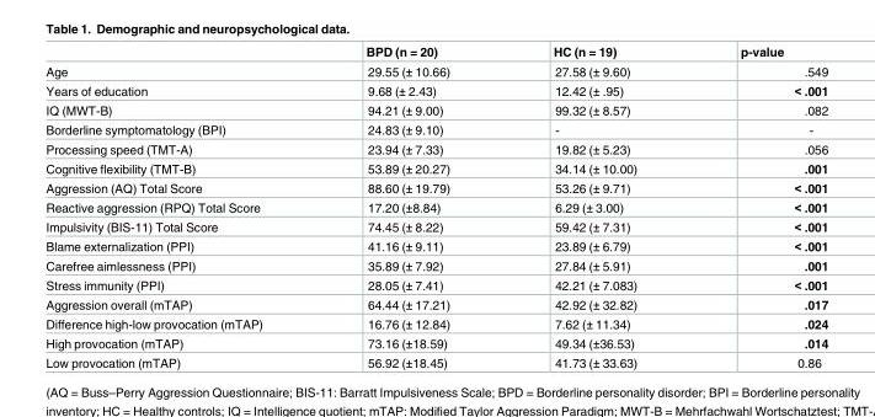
<table><thead><tr><td></td><td>BPD (n = 20)</td><td>HC (n = 19)</td><td>p-value</td></tr></thead><tbody><tr><td>Age</td><td>29.55 (± 10.66)</td><td>27.58 (± 9.60)</td><td>.549</td></tr><tr><td>Years of education</td><td>9.68 (± 2.43)</td><td>12.42 (± .95)</td><td>&lt; .001</td></tr><tr><td>IQ (MWT-B)</td><td>94.21 (± 9.00)</td><td>99.32 (± 8.57)</td><td>.082</td></tr><tr><td>Borderline symptomatology (BPI)</td><td>24.83 (± 9.10)</td><td>-</td><td>-</td></tr><tr><td>Processing speed (TMT-A)</td><td>23.94 (± 7.33)</td><td>19.82 (± 5.23)</td><td>.056</td></tr><tr><td>Cognitive flexibility (TMT-B)</td><td>53.89 (± 20.27)</td><td>34.14 (± 10.00)</td><td>.001</td></tr><tr><td>Aggression (AQ) Total Score</td><td>88.60 (± 19.79)</td><td>53.26 (± 9.71)</td><td>&lt; .001</td></tr><tr><td>Reactive aggression (RPQ) Total Score</td><td>17.20 (±8.84)</td><td>6.29 (± 3.00)</td><td>&lt; .001</td></tr><tr><td>Impulsivity (BIS-11) Total Score</td><td>74.45 (± 8.22)</td><td>59.42 (± 7.31)</td><td>&lt; .001</td></tr><tr><td>Blame externalization (PPI)</td><td>41.16 (± 9.11)</td><td>23.89 (± 6.79)</td><td>&lt; .001</td></tr><tr><td>Carefree aimlessness (PPI)</td><td>35.89 (± 7.92)</td><td>27.84 (± 5.91)</td><td>.001</td></tr><tr><td>Stress immunity (PPI)</td><td>28.05 (± 7.41)</td><td>42.21 (± 7.083)</td><td>&lt; .001</td></tr><tr><td>Aggression overall (mTAP)</td><td>64.44 (± 17.21)</td><td>42.92 (± 32.82)</td><td>.017</td></tr><tr><td>Difference high-low provocation (mTAP)</td><td>16.76 (± 12.84)</td><td>7.62 (± 11.34)</td><td>.024</td></tr><tr><td>High provocation (mTAP)</td><td>73.16 (±18.59)</td><td>49.34 (±36.53)</td><td>.014</td></tr><tr><td>Low provocation (mTAP)</td><td>56.92 (±18.45)</td><td>41.73 (± 33.63)</td><td>0.86</td></tr></tbody></table>